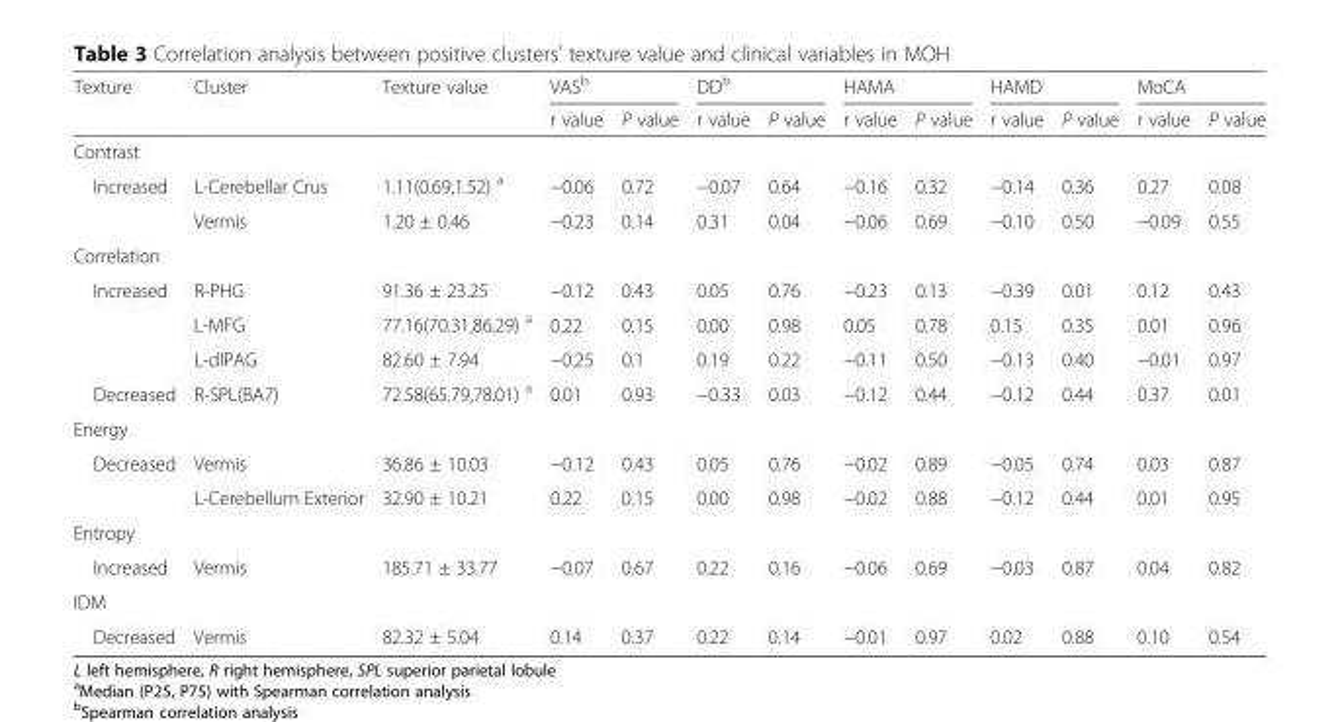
<table><thead><tr><td rowspan="2">Texture</td><td rowspan="2">Cluster</td><td rowspan="2">Texture value</td><td colspan="2">VAS<sup>b</sup></td><td colspan="2">DD<sup>b</sup></td><td colspan="2">HAMA</td><td colspan="2">HAMD</td><td colspan="2">MoCA</td></tr><tr><td>r value</td><td>P value</td><td>r value</td><td>P value</td><td>r value</td><td>P value</td><td>r value</td><td>P value</td><td>r value</td><td>P value</td></tr></thead><tbody><tr><td colspan="13">Contrast</td></tr><tr><td rowspan="2">Increased</td><td>L-Cerebellar Crus</td><td>1.11(0.69,1.52) <sup>a</sup></td><td>−0.06</td><td>0.72</td><td>−0.07</td><td>0.64</td><td>−0.16</td><td>0.32</td><td>−0.14</td><td>0.36</td><td>0.27</td><td>0.08</td></tr><tr><td>Vermis</td><td>1.20 ± 0.46</td><td>−0.23</td><td>0.14</td><td>0.31</td><td>0.04</td><td>−0.06</td><td>0.69</td><td>−0.10</td><td>0.50</td><td>−0.09</td><td>0.55</td></tr><tr><td colspan="13">Correlation</td></tr><tr><td rowspan="3">Increased</td><td>R-PHG</td><td>91.36 ± 23.25</td><td>−0.12</td><td>0.43</td><td>0.05</td><td>0.76</td><td>−0.23</td><td>0.13</td><td>−0.39</td><td>0.01</td><td>0.12</td><td>0.43</td></tr><tr><td>L-MFG</td><td>77.16(70.31,86.29) <sup>a</sup></td><td>0.22</td><td>0.15</td><td>0.00</td><td>0.98</td><td>0.05</td><td>0.78</td><td>0.15</td><td>0.35</td><td>0.01</td><td>0.96</td></tr><tr><td>L-dlPAG</td><td>82.60 ± 7.94</td><td>−0.25</td><td>0.1</td><td>0.19</td><td>0.22</td><td>−0.11</td><td>0.50</td><td>−0.13</td><td>0.40</td><td>−0.01</td><td>0.97</td></tr><tr><td>Decreased</td><td>R-SPL(BA7)</td><td>72.58(65.79,78.01) <sup>a</sup></td><td>0.01</td><td>0.93</td><td>−0.33</td><td>0.03</td><td>−0.12</td><td>0.44</td><td>−0.12</td><td>0.44</td><td>0.37</td><td>0.01</td></tr><tr><td colspan="13">Energy</td></tr><tr><td rowspan="2">Decreased</td><td>Vermis</td><td>36.86 ± 10.03</td><td>−0.12</td><td>0.43</td><td>0.05</td><td>0.76</td><td>−0.02</td><td>0.89</td><td>−0.05</td><td>0.74</td><td>0.03</td><td>0.87</td></tr><tr><td>L-Cerebellum Exterior</td><td>32.90 ± 10.21</td><td>0.22</td><td>0.15</td><td>0.00</td><td>0.98</td><td>−0.02</td><td>0.88</td><td>−0.12</td><td>0.44</td><td>0.01</td><td>0.95</td></tr><tr><td colspan="13">Entropy</td></tr><tr><td>Increased</td><td>Vermis</td><td>185.71 ± 33.77</td><td>−0.07</td><td>0.67</td><td>0.22</td><td>0.16</td><td>−0.06</td><td>0.69</td><td>−0.03</td><td>0.87</td><td>0.04</td><td>0.82</td></tr><tr><td colspan="13">IDM</td></tr><tr><td>Decreased</td><td>Vermis</td><td>82.32 ± 5.04</td><td>0.14</td><td>0.37</td><td>0.22</td><td>0.14</td><td>−0.01</td><td>0.97</td><td>0.02</td><td>0.88</td><td>0.10</td><td>0.54</td></tr></tbody></table>